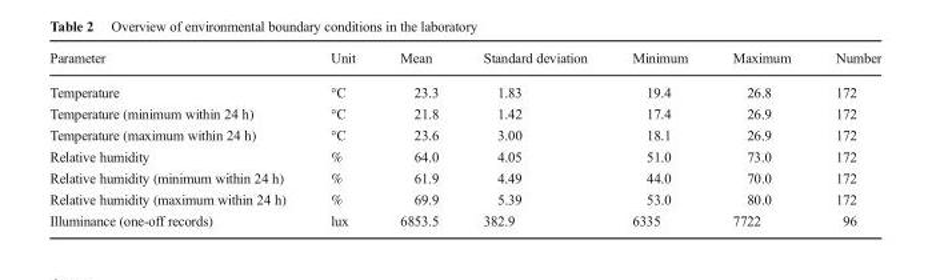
<table><thead><tr><td>Parameter</td><td>Unit</td><td>Mean</td><td>Standard deviation</td><td>Minimum</td><td>Maximum</td><td>Number</td></tr></thead><tbody><tr><td>Temperature</td><td>°C</td><td>23.3</td><td>1.83</td><td>19.4</td><td>26.8</td><td>172</td></tr><tr><td>Temperature (minimum within 24 h)</td><td>°C</td><td>21.8</td><td>1.42</td><td>17.4</td><td>26.9</td><td>172</td></tr><tr><td>Temperature (maximum within 24 h)</td><td>°C</td><td>23.6</td><td>3.00</td><td>18.1</td><td>26.9</td><td>172</td></tr><tr><td>Relative humidity</td><td>%</td><td>64.0</td><td>4.05</td><td>51.0</td><td>73.0</td><td>172</td></tr><tr><td>Relative humidity (minimum within 24 h)</td><td>%</td><td>61.9</td><td>4.49</td><td>44.0</td><td>70.0</td><td>172</td></tr><tr><td>Relative humidity (maximum within 24 h)</td><td>%</td><td>69.9</td><td>5.39</td><td>53.0</td><td>80.0</td><td>172</td></tr><tr><td>Illuminance (one-off records)</td><td>lux</td><td>6853.5</td><td>382.9</td><td>6335</td><td>7722</td><td>96</td></tr></tbody></table>